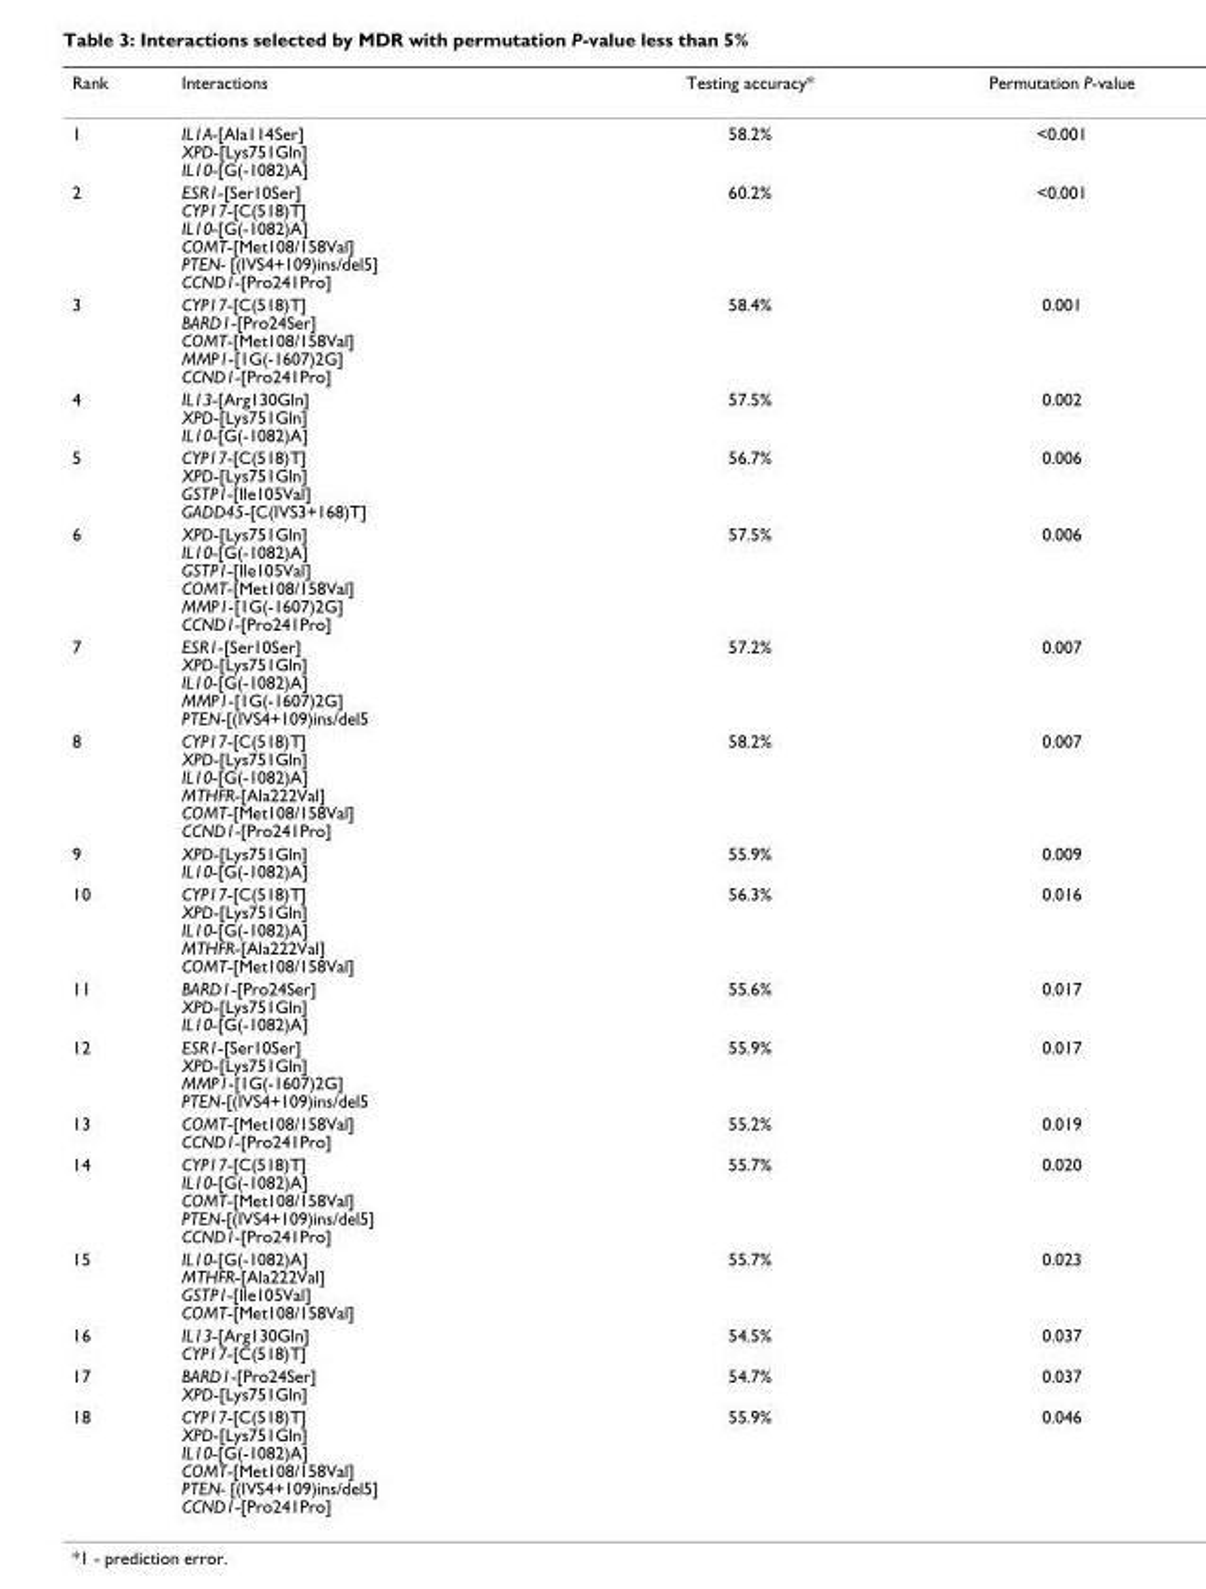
<table><thead><tr><td>Rank</td><td>Interactions</td><td>Testing accuracy*</td><td>Permutation P-value</td></tr></thead><tbody><tr><td>1</td><td>IL1A-[Ala114Ser] XPD-[Lys751Gln] IL10-[G(-1082)A]</td><td>58.2%</td><td>&lt;0.001</td></tr><tr><td>2</td><td>ESR1-[Ser10Ser] CYP17-[C(518)T] IL10-[G(-1082)A] COMT-[Met108/158Val] PTEN- [(IVS4+109)ins/del5] CCND1-[Pro241Pro]</td><td>60.2%</td><td>&lt;0.001</td></tr><tr><td>3</td><td>CYP17-[C(518)T] BARD1-[Pro24Ser] COMT-[Met108/158Val] MMP1-[1G(-1607)2G] CCND1-[Pro241Pro]</td><td>58.4%</td><td>0.001</td></tr><tr><td>4</td><td>IL13-[Arg130Gln] XPD-[Lys751Gln] IL10-[G(-1082)A]</td><td>57.5%</td><td>0.002</td></tr><tr><td>5</td><td>CYP17-[C(518)T] XPD-[Lys751Gln] GSTP1-[Ile105Val] GADD45-[C(IVS3+168)T]</td><td>56.7%</td><td>0.006</td></tr><tr><td>6</td><td>XPD-[Lys751Gln] IL10-[G(-1082)A] GSTP1-[Ile105Val] COMT-[Met108/158Val] MMP1-[1G(-1607)2G] CCND1-[Pro241Pro]</td><td>57.5%</td><td>0.006</td></tr><tr><td>7</td><td>ESR1-[Ser10Ser] XPD-[Lys751Gln] IL10-[G(-1082)A] MMP1-[1G(-1607)2G] PTEN-[(IVS4+109)ins/del5</td><td>57.2%</td><td>0.007</td></tr><tr><td>8</td><td>CYP17-[C(518)T] XPD-[Lys751Gln] IL10-[G(-1082)A] MTHFR-[Ala222Val] COMT-[Met108/158Val] CCND1-[Pro241Pro]</td><td>58.2%</td><td>0.007</td></tr><tr><td>9</td><td>XPD-[Lys751Gln] IL10-[G(-1082)A]</td><td>55.9%</td><td>0.009</td></tr><tr><td>10</td><td>CYP17-[C(518)T] XPD-[Lys751Gln] IL10-[G(-1082)A] MTHFR-[Ala222Val] COMT-[Met108/158Val]</td><td>56.3%</td><td>0.016</td></tr><tr><td>11</td><td>BARD1-[Pro24Ser] XPD-[Lys751Gln] IL10-[G(-1082)A]</td><td>55.6%</td><td>0.017</td></tr><tr><td>12</td><td>ESR1-[Ser10Ser] XPD-[Lys751Gln] MMP1-[1G(-1607)2G] PTEN-[(IVS4+109)ins/del5</td><td>55.9%</td><td>0.017</td></tr><tr><td>13</td><td>COMT-[Met108/158Val] CCND1-[Pro241Pro]</td><td>55.2%</td><td>0.019</td></tr><tr><td>14</td><td>CYP17-[C(518)T] IL10-[G(-1082)A] COMT-[Met108/158Val] PTEN-[(IVS4+109)ins/del5] CCND1-[Pro241Pro]</td><td>55.7%</td><td>0.020</td></tr><tr><td>15</td><td>IL10-[G(-1082)A] MTHFR-[Ala222Val] GSTP1-[Ile105Val] COMT-[Met108/158Val]</td><td>55.7%</td><td>0.023</td></tr><tr><td>16</td><td>IL13-[Arg130Gln] CYP17-[C(518)T]</td><td>54.5%</td><td>0.037</td></tr><tr><td>17</td><td>BARD1-[Pro24Ser] XPD-[Lys751Gln]</td><td>54.7%</td><td>0.037</td></tr><tr><td>18</td><td>CYP17-[C(518)T] XPD-[Lys751Gln] IL10-[G(-1082)A] COMT-[Met108/158Val] PTEN- [(IVS4+109)ins/del5] CCND1-[Pro241Pro]</td><td>55.9%</td><td>0.046</td></tr></tbody></table>